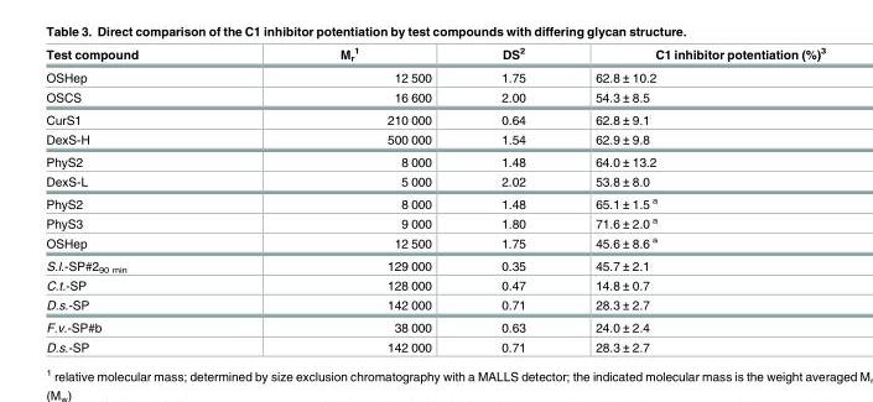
<table><thead><tr><td>Test compound</td><td>M<sub>r</sub> <sup>1</sup></td><td>DS<sup>2</sup></td><td>C1 inhibitor potentiation (%)<sup>3</sup></td></tr></thead><tbody><tr><td>OSHep</td><td>12 500</td><td>1.75</td><td>62.8 ± 10.2</td></tr><tr><td>OSCS</td><td>16 600</td><td>2.00</td><td>54.3 ± 8.5</td></tr><tr><td>CurS1</td><td>210 000</td><td>0.64</td><td>62.8 ± 9.1</td></tr><tr><td>DexS-H</td><td>500 000</td><td>1.54</td><td>62.9 ± 9.8</td></tr><tr><td>PhyS2</td><td>8 000</td><td>1.48</td><td>64.0 ± 13.2</td></tr><tr><td>DexS-L</td><td>5 000</td><td>2.02</td><td>53.8 ± 8.0</td></tr><tr><td>PhyS2</td><td>8 000</td><td>1.48</td><td>65.1 ± 1.5 <sup>a</sup></td></tr><tr><td>PhyS3</td><td>9 000</td><td>1.80</td><td>71.6 ± 2.0 <sup>a</sup></td></tr><tr><td>OSHep</td><td>12 500</td><td>1.75</td><td>45.6 ± 8.6 <sup>a</sup></td></tr><tr><td>S.l.-SP#2<sub>90 min</sub></td><td>129 000</td><td>0.35</td><td>45.7 ± 2.1</td></tr><tr><td>C.t.-SP</td><td>128 000</td><td>0.47</td><td>14.8 ± 0.7</td></tr><tr><td>D.s.-SP</td><td>142 000</td><td>0.71</td><td>28.3 ± 2.7</td></tr><tr><td>F.v.-SP#b</td><td>38 000</td><td>0.63</td><td>24.0 ± 2.4</td></tr><tr><td>D.s.-SP</td><td>142 000</td><td>0.71</td><td>28.3 ± 2.7</td></tr></tbody></table>